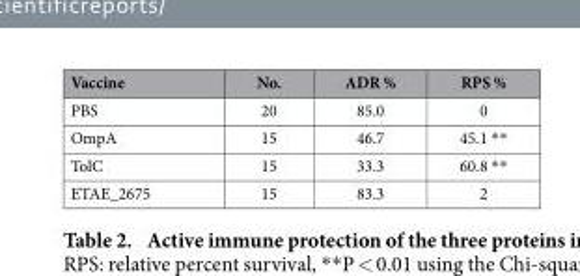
<table><thead><tr><td>Vaccine</td><td>No.</td><td>ADR %</td><td>RPS %</td></tr></thead><tbody><tr><td>PBS</td><td>20</td><td>85.0</td><td>0</td></tr><tr><td>OmpA</td><td>15</td><td>46.7</td><td>45.1 * *</td></tr><tr><td>TolC</td><td>15</td><td>33.3</td><td>60.8 * *</td></tr><tr><td>ETAE_2675</td><td>15</td><td>83.3</td><td>2</td></tr></tbody></table>